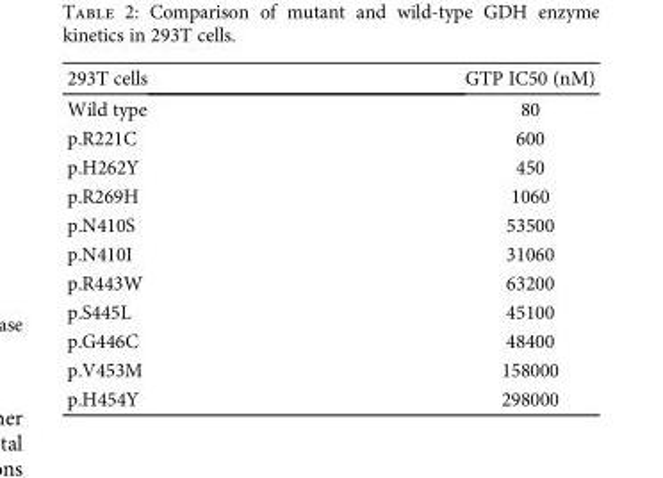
<table><thead><tr><td>293T cells</td><td>GTP IC50 (nM)</td></tr></thead><tbody><tr><td>Wild type</td><td>80</td></tr><tr><td>p.R221C</td><td>600</td></tr><tr><td>p.H262Y</td><td>450</td></tr><tr><td>p.R269H</td><td>1060</td></tr><tr><td>p.N410S</td><td>53500</td></tr><tr><td>p.N410I</td><td>31060</td></tr><tr><td>p.R443W</td><td>63200</td></tr><tr><td>p.S445L</td><td>45100</td></tr><tr><td>p.G446C</td><td>48400</td></tr><tr><td>p.V453M</td><td>158000</td></tr><tr><td>p.H454Y</td><td>298000</td></tr></tbody></table>